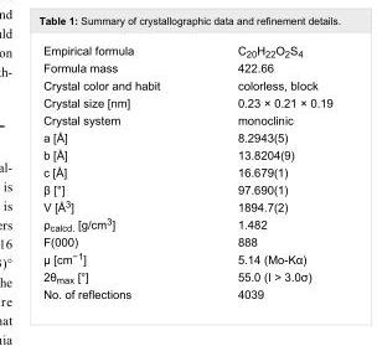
<table><tbody><tr><td>Empirical formula</td><td>C<sub>20</sub>H<sub>22</sub>O<sub>2</sub>S<sub>4</sub></td></tr><tr><td>Formula mass</td><td>422.66</td></tr><tr><td>Crystal color and habit</td><td>colorless, block</td></tr><tr><td>Crystal size [nm]</td><td>0.23 × 0.21 × 0.19</td></tr><tr><td>Crystal system</td><td>monoclinic</td></tr><tr><td>a [Å]</td><td>8.2943(5)</td></tr><tr><td>b [Å]</td><td>13.8204(9)</td></tr><tr><td>c [Å]</td><td>16.679(1)</td></tr><tr><td>β [°]</td><td>97.690(1)</td></tr><tr><td>V [Å<sup>3</sup>]</td><td>1894.7(2)</td></tr><tr><td>ρ<sub>calcd.</sub> [g/cm<sup>3</sup>]</td><td>1.482</td></tr><tr><td>F(000)</td><td>888</td></tr><tr><td>μ [cm<sup>−1</sup>]</td><td>5.14 (Mo-Kα)</td></tr><tr><td>2θ<sub>max</sub> [°]</td><td>55.0 (I &gt; 3.0σ)</td></tr><tr><td>No. of reflections</td><td>4039</td></tr></tbody></table>